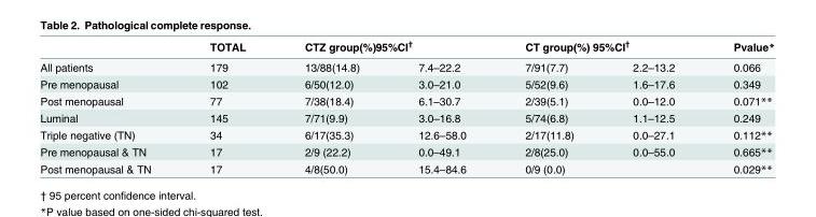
<table><thead><tr><td rowspan="2">All patients</td><td rowspan="2">TOTAL 179</td><td colspan="2">CTZ group(%)95%CI<sup>†</sup></td><td colspan="2">CT group(%) 95%CI<sup>†</sup></td><td rowspan="2">Pvalue* 0.066</td></tr><tr><td>13/88(14.8)</td><td>7.4–22.2</td><td>7/91(7.7)</td><td>2.2–13.2</td></tr></thead><tbody><tr><td>Pre menopausal</td><td>102</td><td>6/50(12.0)</td><td>3.0–21.0</td><td>5/52(9.6)</td><td>1.6–17.6</td><td>0.349</td></tr><tr><td>Post menopausal</td><td>77</td><td>7/38(18.4)</td><td>6.1–30.7</td><td>2/39(5.1)</td><td>0.0–12.0</td><td>0.071**</td></tr><tr><td>Luminal</td><td>145</td><td>7/71(9.9)</td><td>3.0–16.8</td><td>5/74(6.8)</td><td>1.1–12.5</td><td>0.249</td></tr><tr><td>Triple negative (TN)</td><td>34</td><td>6/17(35.3)</td><td>12.6–58.0</td><td>2/17(11.8)</td><td>0.0–27.1</td><td>0.112**</td></tr><tr><td>Pre menopausal &amp; TN</td><td>17</td><td>2/9 (22.2)</td><td>0.0–49.1</td><td>2/8(25.0)</td><td>0.0–55.0</td><td>0.665**</td></tr><tr><td>Post menopausal &amp; TN</td><td>17</td><td>4/8(50.0)</td><td>15.4–84.6</td><td>0/9 (0.0)</td><td></td><td>0.029**</td></tr></tbody></table>